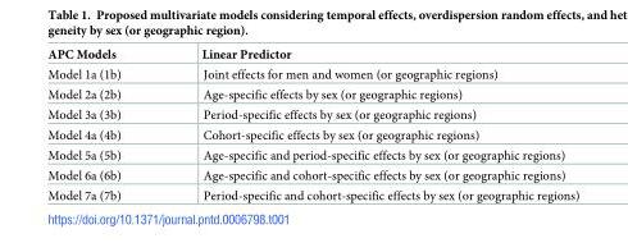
<table><thead><tr><td>APC Models</td><td>Linear Predictor</td></tr></thead><tbody><tr><td>Model 1a (1b)</td><td>Joint effects for men and women (or geographic regions)</td></tr><tr><td>Model 2a (2b)</td><td>Age-specific effects by sex (or geographic regions)</td></tr><tr><td>Model 3a (3b)</td><td>Period-specific effects by sex (or geographic regions)</td></tr><tr><td>Model 4a (4b)</td><td>Cohort-specific effects by sex (or geographic regions)</td></tr><tr><td>Model 5a (5b)</td><td>Age-specific and period-specific effects by sex (or geographic regions)</td></tr><tr><td>Model 6a (6b)</td><td>Age-specific and cohort-specific effects by sex (or geographic regions)</td></tr><tr><td>Model 7a (7b)</td><td>Period-specific and cohort-specific effects by sex (or geographic regions)</td></tr></tbody></table>